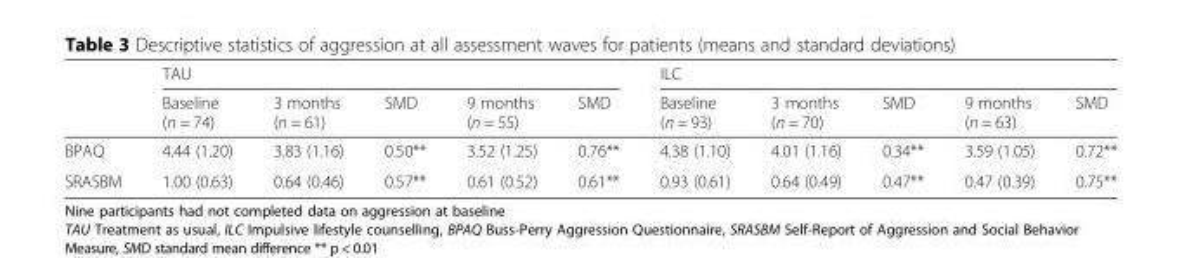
<table><thead><tr><td rowspan="2"></td><td colspan="5">TAU</td><td colspan="5">ILC</td></tr><tr><td>Baseline (n = 74)</td><td>3 months (n = 61)</td><td>SMD</td><td>9 months (n = 55)</td><td>SMD</td><td>Baseline (n = 93)</td><td>3 months (n = 70)</td><td>SMD</td><td>9 months (n = 63)</td><td>SMD</td></tr></thead><tbody><tr><td>BPAQ</td><td>4.44 (1.20)</td><td>3.83 (1.16)</td><td>0.50**</td><td>3.52 (1.25)</td><td>0.76**</td><td>4.38 (1.10)</td><td>4.01 (1.16)</td><td>0.34**</td><td>3.59 (1.05)</td><td>0.72**</td></tr><tr><td>SRASBM</td><td>1.00 (0.63)</td><td>0.64 (0.46)</td><td>0.57**</td><td>0.61 (0.52)</td><td>0.61**</td><td>0.93 (0.61)</td><td>0.64 (0.49)</td><td>0.47**</td><td>0.47 (0.39)</td><td>0.75**</td></tr></tbody></table>